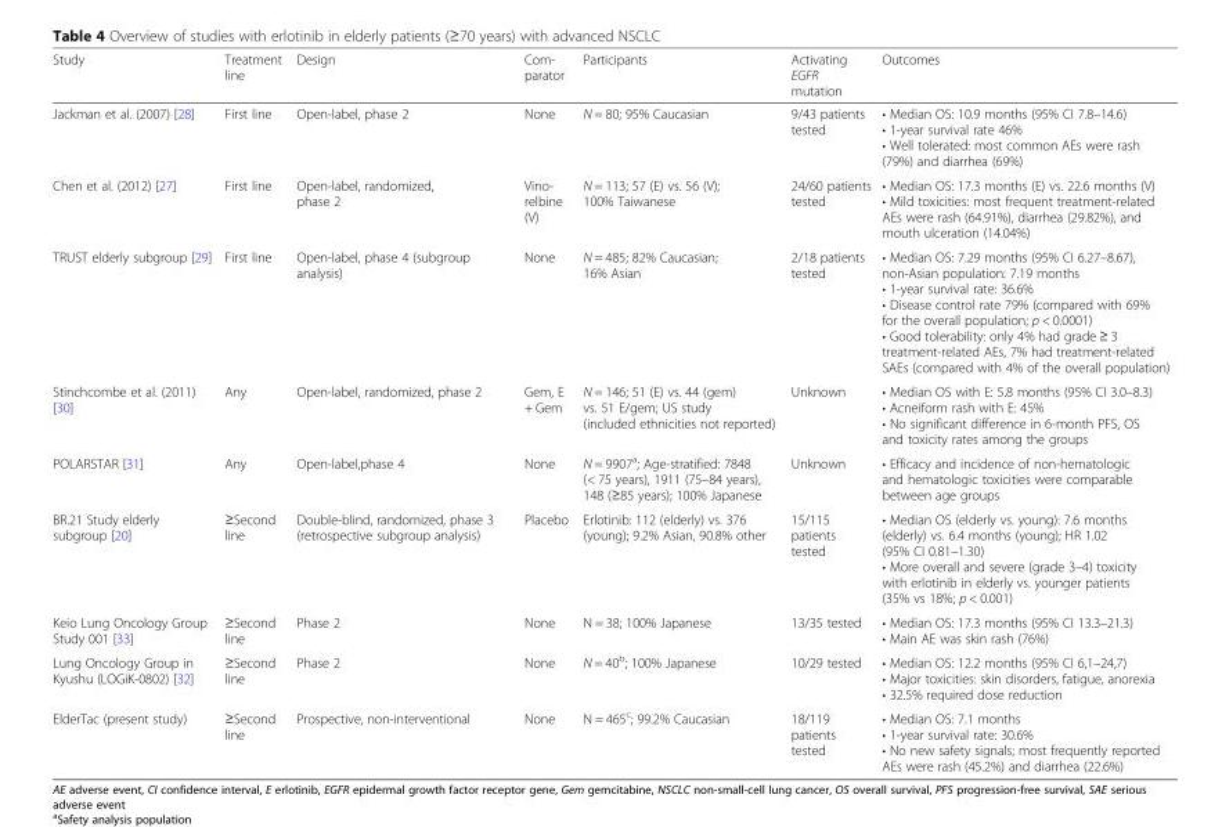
<table><thead><tr><td>Study</td><td>Treatment line</td><td>Design</td><td>Com- parator</td><td>Participants</td><td>Activating EGFR mutation</td><td>Outcomes</td></tr></thead><tbody><tr><td>Jackman et al. (2007) [28]</td><td>First line</td><td>Open-label, phase 2</td><td>None</td><td>N = 80; 95% Caucasian</td><td>9/43 patients tested</td><td>• Median OS: 10.9 months (95% CI 7.8–14.6) • 1-year survival rate 46% • Well tolerated: most common AEs were rash (79%) and diarrhea (69%)</td></tr><tr><td>Chen et al. (2012) [27]</td><td>First line</td><td>Open-label, randomized, phase 2</td><td>Vino- relbine (V)</td><td>N = 113; 57 (E) vs. 56 (V); 100% Taiwanese</td><td>24/60 patients tested</td><td>• Median OS: 17.3 months (E) vs. 22.6 months (V) • Mild toxicities: most frequent treatment-related AEs were rash (64.91%), diarrhea (29.82%), and mouth ulceration (14.04%)</td></tr><tr><td>TRUST elderly subgroup [29]</td><td>First line</td><td>Open-label, phase 4 (subgroup analysis)</td><td>None</td><td>N = 485; 82% Caucasian; 16% Asian</td><td>2/18 patients tested</td><td>• Median OS: 7.29 months (95% CI 6.27–8.67), non-Asian population: 7.19 months • 1-year survival rate: 36.6% • Disease control rate 79% (compared with 69% for the overall population; p &lt; 0.0001) • Good tolerability: only 4% had grade ≥ 3 treatment-related AEs, 7% had treatment-related SAEs (compared with 4% of the overall population)</td></tr><tr><td>Stinchcombe et al. (2011) [30]</td><td>Any</td><td>Open-label, randomized, phase 2</td><td>Gem, E + Gem</td><td>N = 146; 51 (E) vs. 44 (gem) vs. 51 E/gem; US study (included ethnicities not reported)</td><td>Unknown</td><td>• Median OS with E: 5.8 months (95% CI 3.0–8.3) • Acneiform rash with E: 45% • No significant difference in 6-month PFS, OS and toxicity rates among the groups</td></tr><tr><td>POLARSTAR [31]</td><td>Any</td><td>Open-label,phase 4</td><td>None</td><td>N = 9907<sup>a</sup>; Age-stratified: 7848 (&lt; 75 years), 1911 (75–84 years), 148 (≥85 years); 100% Japanese</td><td>Unknown</td><td>• Efficacy and incidence of non-hematologic and hematologic toxicities were comparable between age groups</td></tr><tr><td>BR.21 Study elderly subgroup [20]</td><td>≥Second line</td><td>Double-blind, randomized, phase 3 (retrospective subgroup analysis)</td><td>Placebo</td><td>Erlotinib: 112 (elderly) vs. 376 (young); 9.2% Asian, 90.8% other</td><td>15/115 patients tested</td><td>• Median OS (elderly vs. young): 7.6 months (elderly) vs. 6.4 months (young); HR 1.02 (95% CI 0.81–1.30) • More overall and severe (grade 3–4) toxicity with erlotinib in elderly vs. younger patients (35% vs 18%; p &lt; 0.001)</td></tr><tr><td>Keio Lung Oncology Group Study 001 [33]</td><td>≥Second line</td><td>Phase 2</td><td>None</td><td>N = 38; 100% Japanese</td><td>13/35 tested</td><td>• Median OS: 17.3 months (95% CI 13.3–21.3) • Main AE was skin rash (76%)</td></tr><tr><td>Lung Oncology Group in Kyushu (LOGiK-0802) [32]</td><td>≥Second line</td><td>Phase 2</td><td>None</td><td>N = 40<sup>b</sup>; 100% Japanese</td><td>10/29 tested</td><td>• Median OS: 12.2 months (95% CI 6,1–24,7) • Major toxicities: skin disorders, fatigue, anorexia • 32.5% required dose reduction</td></tr><tr><td>ElderTac (present study)</td><td>≥Second line</td><td>Prospective, non-interventional</td><td>None</td><td>N = 465<sup>c</sup>; 99.2% Caucasian</td><td>18/119 patients tested</td><td>• Median OS: 7.1 months • 1-year survival rate: 30.6% • No new safety signals; most frequently reported AEs were rash (45.2%) and diarrhea (22.6%)</td></tr></tbody></table>